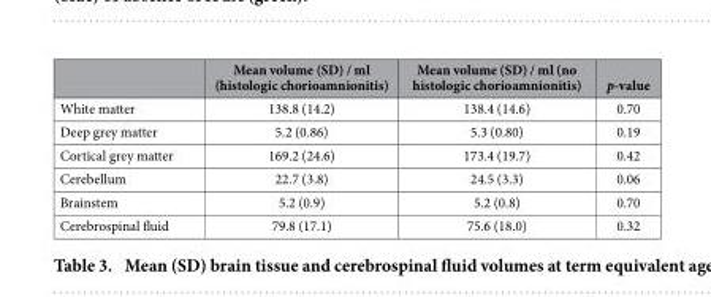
<table><thead><tr><td></td><td>Mean volume (SD) / ml (histologic chorioamnionitis)</td><td>Mean volume (SD) / ml (no histologic chorioamnionitis)</td><td>p-value</td></tr></thead><tbody><tr><td>White matter</td><td>138.8 (14.2)</td><td>138.4 (14.6)</td><td>0.70</td></tr><tr><td>Deep grey matter</td><td>5.2 (0.86)</td><td>5.3 (0.80)</td><td>0.19</td></tr><tr><td>Cortical grey matter</td><td>169.2 (24.6)</td><td>173.4 (19.7)</td><td>0.42</td></tr><tr><td>Cerebellum</td><td>22.7 (3.8)</td><td>24.5 (3.3)</td><td>0.06</td></tr><tr><td>Brainstem</td><td>5.2 (0.9)</td><td>5.2 (0.8)</td><td>0.70</td></tr><tr><td>Cerebrospinal fluid</td><td>79.8 (17.1)</td><td>75.6 (18.0)</td><td>0.32</td></tr></tbody></table>